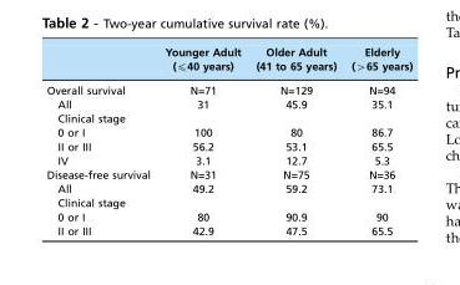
<table><thead><tr><td></td><td>Younger Adult (≤40 years)</td><td>Older Adult (41 to 65 years)</td><td>Elderly (&gt;65 years)</td></tr></thead><tbody><tr><td>Overall survival</td><td>N=71</td><td>N=129</td><td>N=94</td></tr><tr><td>All</td><td>31</td><td>45.9</td><td>35.1</td></tr><tr><td colspan="4">Clinical stage</td></tr><tr><td>0 or I</td><td>100</td><td>80</td><td>86.7</td></tr><tr><td>II or III</td><td>56.2</td><td>53.1</td><td>65.5</td></tr><tr><td>IV</td><td>3.1</td><td>12.7</td><td>5.3</td></tr><tr><td>Disease-free survival</td><td>N=31</td><td>N=75</td><td>N=36</td></tr><tr><td>All</td><td>49.2</td><td>59.2</td><td>73.1</td></tr><tr><td colspan="4">Clinical stage</td></tr><tr><td>0 or I</td><td>80</td><td>90.9</td><td>90</td></tr><tr><td>II or III</td><td>42.9</td><td>47.5</td><td>65.5</td></tr></tbody></table>